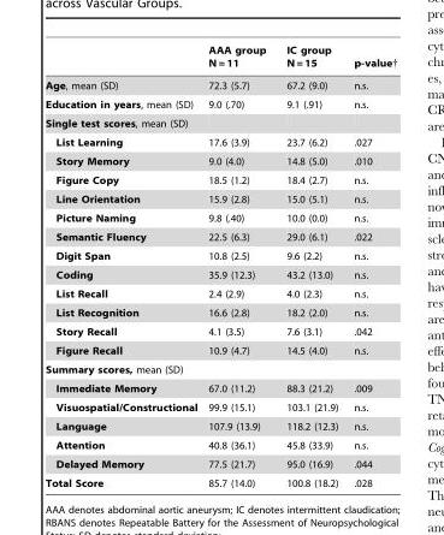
<table><thead><tr><td></td><td>AAA group N = 11</td><td>IC group N = 15</td><td>p-value†</td></tr></thead><tbody><tr><td>Age, mean (SD)</td><td>72.3 (5.7)</td><td>67.2 (9.0)</td><td>n.s.</td></tr><tr><td>Education in years, mean (SD)</td><td>9.0 (.70)</td><td>9.1 (.91)</td><td>n.s.</td></tr><tr><td colspan="4">Single test scores, mean (SD)</td></tr><tr><td>List Learning</td><td>17.6 (3.9)</td><td>23.7 (6.2)</td><td>.027</td></tr><tr><td>Story Memory</td><td>9.0 (4.0)</td><td>14.8 (5.0)</td><td>.010</td></tr><tr><td>Figure Copy</td><td>18.5 (1.2)</td><td>18.4 (2.7)</td><td>n.s.</td></tr><tr><td>Line Orientation</td><td>15.9 (2.8)</td><td>15.0 (5.1)</td><td>n.s.</td></tr><tr><td>Picture Naming</td><td>9.8 (.40)</td><td>10.0 (0.0)</td><td>n.s.</td></tr><tr><td>Semantic Fluency</td><td>22.5 (6.3)</td><td>29.0 (6.1)</td><td>.022</td></tr><tr><td>Digit Span</td><td>10.8 (2.5)</td><td>9.6 (2.2)</td><td>n.s.</td></tr><tr><td>Coding</td><td>35.9 (12.3)</td><td>43.2 (13.0)</td><td>n.s.</td></tr><tr><td>List Recall</td><td>2.4 (2.9)</td><td>4.0 (2.3)</td><td>n.s.</td></tr><tr><td>List Recognition</td><td>16.6 (2.8)</td><td>18.2 (2.0)</td><td>n.s.</td></tr><tr><td>Story Recall</td><td>4.1 (3.5)</td><td>7.6 (3.1)</td><td>.042</td></tr><tr><td>Figure Recall</td><td>10.9 (4.7)</td><td>14.5 (4.0)</td><td>n.s.</td></tr><tr><td colspan="4">Summary scores, mean (SD)</td></tr><tr><td>Immediate Memory</td><td>67.0 (11.2)</td><td>88.3 (21.2)</td><td>.009</td></tr><tr><td>Visuospatial/Constructional</td><td>99.9 (15.1)</td><td>103.1 (21.9)</td><td>n.s.</td></tr><tr><td>Language</td><td>107.9 (13.9)</td><td>118.2 (12.3)</td><td>n.s.</td></tr><tr><td>Attention</td><td>40.8 (36.1)</td><td>45.8 (33.9)</td><td>n.s.</td></tr><tr><td>Delayed Memory</td><td>77.5 (21.7)</td><td>95.0 (16.9)</td><td>.044</td></tr><tr><td>Total Score</td><td>85.7 (14.0)</td><td>100.8 (18.2)</td><td>.028</td></tr></tbody></table>